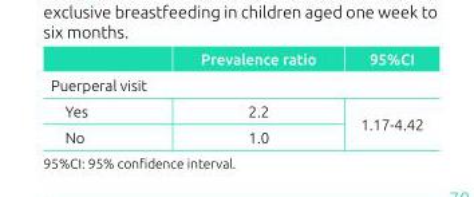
<table><thead><tr><td></td><td>Prevalence ratio</td><td>95%CI</td></tr></thead><tbody><tr><td colspan="3">Puerperal visit</td></tr><tr><td>Yes</td><td>2.2</td><td rowspan="2">1.17-4.42</td></tr><tr><td>No</td><td>1.0</td></tr></tbody></table>